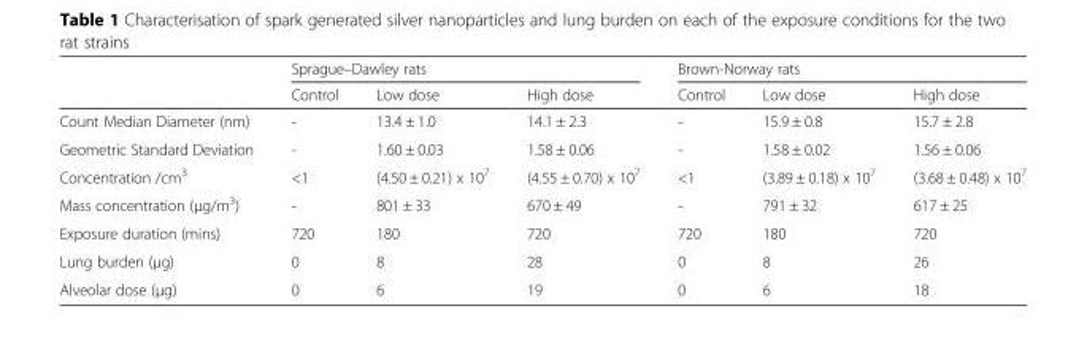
<table><thead><tr><td rowspan="2"></td><td colspan="3">Sprague–Dawley rats</td><td colspan="3">Brown-Norway rats</td></tr><tr><td>Control</td><td>Low dose</td><td>High dose</td><td>Control</td><td>Low dose</td><td>High dose</td></tr></thead><tbody><tr><td>Count Median Diameter (nm)</td><td>-</td><td>13.4 ± 1.0</td><td>14.1 ± 2.3</td><td>-</td><td>15.9 ± 0.8</td><td>15.7 ± 2.8</td></tr><tr><td>Geometric Standard Deviation</td><td>-</td><td>1.60 ± 0.03</td><td>1.58 ± 0.06</td><td>-</td><td>1.58 ± 0.02</td><td>1.56 ± 0.06</td></tr><tr><td>Concentration /cm<sup>3</sup></td><td>&lt;1</td><td>(4.50 ± 0.21) x 10<sup>7</sup></td><td>(4.55 ± 0.70) x 10<sup>7</sup></td><td>&lt;1</td><td>(3.89 ± 0.18) x 10<sup>7</sup></td><td>(3.68 ± 0.48) x 10<sup>7</sup></td></tr><tr><td>Mass concentration (μg/m<sup>3</sup>)</td><td>-</td><td>801 ± 33</td><td>670 ± 49</td><td>-</td><td>791 ± 32</td><td>617 ± 25</td></tr><tr><td>Exposure duration (mins)</td><td>720</td><td>180</td><td>720</td><td>720</td><td>180</td><td>720</td></tr><tr><td>Lung burden (μg)</td><td>0</td><td>8</td><td>28</td><td>0</td><td>8</td><td>26</td></tr><tr><td>Alveolar dose (μg)</td><td>0</td><td>6</td><td>19</td><td>0</td><td>6</td><td>18</td></tr></tbody></table>